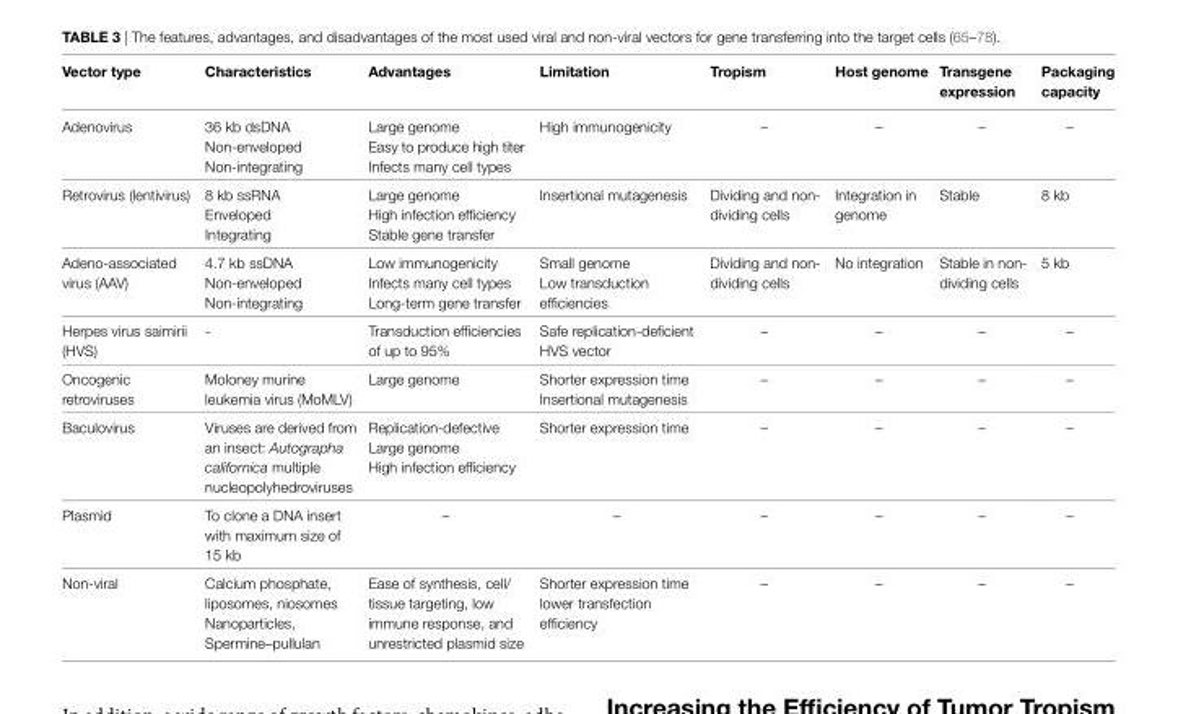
<table><thead><tr><td>vector type</td><td>Characteristics</td><td>Advantages</td><td>limitation</td><td>Tropism</td><td>Host genome</td><td>Transgene expression</td><td>Packaging capacity</td></tr></thead><tbody><tr><td>Adenovirus</td><td>36 kb dsDNA Non-enveloped Non-integrating</td><td>Large genome Easy to produce high titer Infects many cell types</td><td>High immunogenicity</td><td>–</td><td>–</td><td>–</td><td>–</td></tr><tr><td>Retrovirus (lentivirus)</td><td>8 kb ssRNA Enveloped Integrating</td><td>Large genome High infection efficiency Stable gene transfer</td><td>Insertional mutagenesis</td><td>Dividing and non- dividing cells</td><td>Integration in genome</td><td>Stable</td><td>8 kb</td></tr><tr><td>Adeno-associated virus (AAV)</td><td>4.7 kb ssDNA Non-enveloped Non-integrating</td><td>Low immunogenicity Infects many cell types Long-term gene transfer</td><td>Small genome Low transduction efficiencies</td><td>Dividing and non- dividing cells</td><td>No integration</td><td>Stable in non- dividing cells</td><td>5 kb</td></tr><tr><td>Herpes virus saimirii (HVS)</td><td>-</td><td>Transduction efficiencies of up to 95%</td><td>Safe replication-deficient HVS vector</td><td>–</td><td>–</td><td>–</td><td>–</td></tr><tr><td>Oncogenic retroviruses</td><td>Moloney murine leukemia virus (MoMLV)</td><td>Large genome</td><td>Shorter expression time Insertional mutagenesis</td><td>–</td><td>–</td><td>–</td><td>–</td></tr><tr><td>Baculovirus</td><td>Viruses are derived from an insect: Autographa californica multiple nucleopolyhedroviruses</td><td>Replication-defective Large genome High infection efficiency</td><td>Shorter expression time</td><td>–</td><td>–</td><td>–</td><td>–</td></tr><tr><td>Plasmid</td><td>To clone a DNA insert with maximum size of 15 kb</td><td>–</td><td>–</td><td>–</td><td>–</td><td>–</td><td>–</td></tr><tr><td>Non-viral</td><td>Calcium phosphate, liposomes, niosomes Nanoparticles, Spermine–pullulan</td><td>Ease of synthesis, cell/ tissue targeting, low immune response, and unrestricted plasmid size</td><td>Shorter expression time lower transfection efficiency</td><td>–</td><td>–</td><td>–</td><td>–</td></tr></tbody></table>